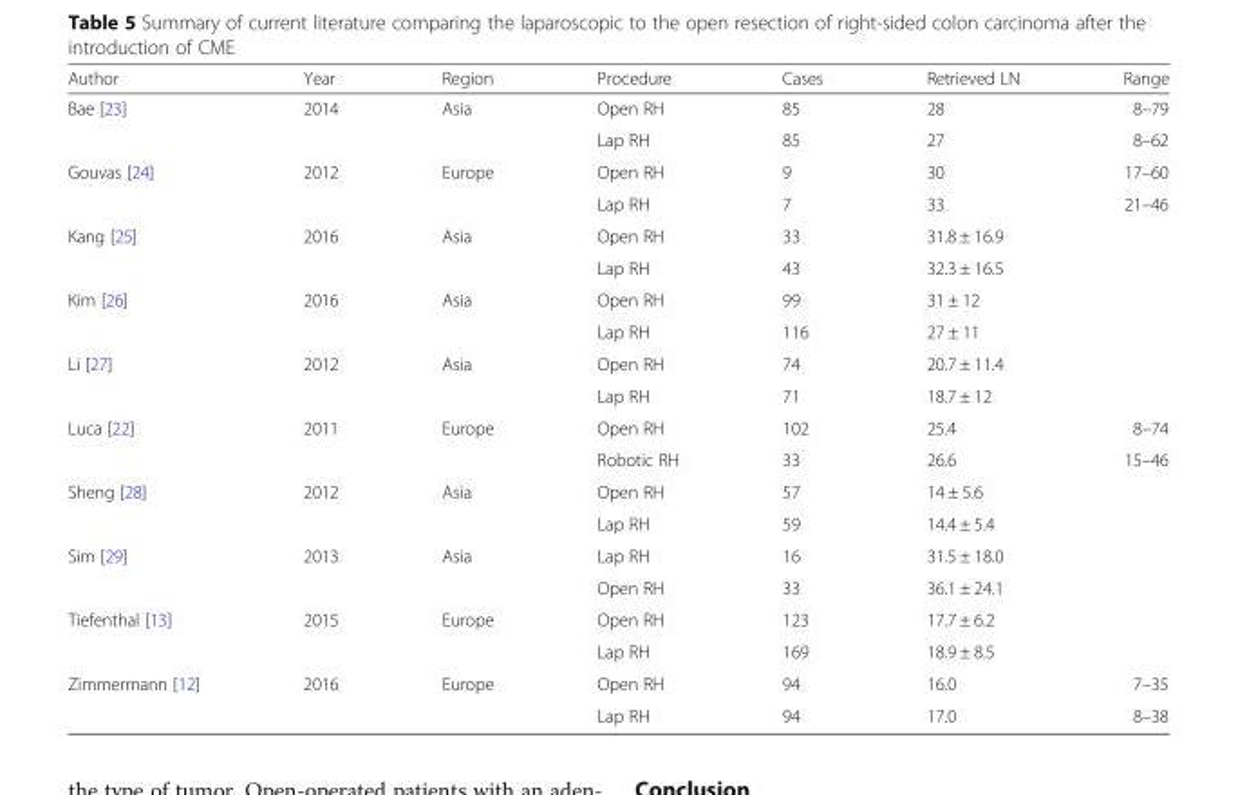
<table><thead><tr><td>Author</td><td>Year</td><td>Region</td><td>Procedure</td><td>Cases</td><td>Retrieved LN</td><td>Range</td></tr></thead><tbody><tr><td rowspan="2">Bae [23]</td><td rowspan="2">2014</td><td rowspan="2">Asia</td><td>Open RH</td><td>85</td><td>28</td><td>8–79</td></tr><tr><td>Lap RH</td><td>85</td><td>27</td><td>8–62</td></tr><tr><td rowspan="2">Gouvas [24]</td><td rowspan="2">2012</td><td rowspan="2">Europe</td><td>Open RH</td><td>9</td><td>30</td><td>17–60</td></tr><tr><td>Lap RH</td><td>7</td><td>33</td><td>21–46</td></tr><tr><td rowspan="2">Kang [25]</td><td rowspan="2">2016</td><td rowspan="2">Asia</td><td>Open RH</td><td>33</td><td>31.8 ± 16.9</td><td></td></tr><tr><td>Lap RH</td><td>43</td><td>32.3 ± 16.5</td><td></td></tr><tr><td rowspan="2">Kim [26]</td><td rowspan="2">2016</td><td rowspan="2">Asia</td><td>Open RH</td><td>99</td><td>31 ± 12</td><td></td></tr><tr><td>Lap RH</td><td>116</td><td>27 ± 11</td><td></td></tr><tr><td rowspan="2">Li [27]</td><td rowspan="2">2012</td><td rowspan="2">Asia</td><td>Open RH</td><td>74</td><td>20.7 ± 11.4</td><td></td></tr><tr><td>Lap RH</td><td>71</td><td>18.7 ± 12</td><td></td></tr><tr><td rowspan="2">Luca [22]</td><td rowspan="2">2011</td><td rowspan="2">Europe</td><td>Open RH</td><td>102</td><td>25.4</td><td>8–74</td></tr><tr><td>Robotic RH</td><td>33</td><td>26.6</td><td>15–46</td></tr><tr><td rowspan="2">Sheng [28]</td><td rowspan="2">2012</td><td rowspan="2">Asia</td><td>Open RH</td><td>57</td><td>14 ± 5.6</td><td></td></tr><tr><td>Lap RH</td><td>59</td><td>14.4 ± 5.4</td><td></td></tr><tr><td rowspan="2">Sim [29]</td><td rowspan="2">2013</td><td rowspan="2">Asia</td><td>Lap RH</td><td>16</td><td>31.5 ± 18.0</td><td></td></tr><tr><td>Open RH</td><td>33</td><td>36.1 ± 24.1</td><td></td></tr><tr><td rowspan="2">Tiefenthal [13]</td><td rowspan="2">2015</td><td rowspan="2">Europe</td><td>Open RH</td><td>123</td><td>17.7 ± 6.2</td><td></td></tr><tr><td>Lap RH</td><td>169</td><td>18.9 ± 8.5</td><td></td></tr><tr><td rowspan="2">Zimmermann [12]</td><td rowspan="2">2016</td><td rowspan="2">Europe</td><td>Open RH</td><td>94</td><td>16.0</td><td>7–35</td></tr><tr><td>Lap RH</td><td>94</td><td>17.0</td><td>8–38</td></tr></tbody></table>